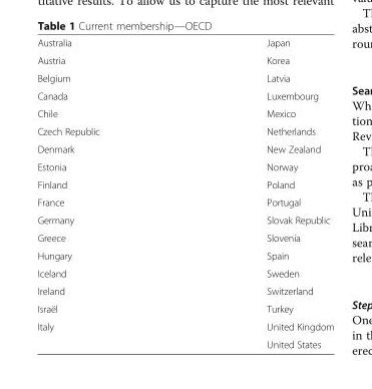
<table><tbody><tr><td>Australia</td><td>Japan</td></tr><tr><td>Austria</td><td>Korea</td></tr><tr><td>Belgium</td><td>Latvia</td></tr><tr><td>Canada</td><td>Luxembourg</td></tr><tr><td>Chile</td><td>Mexico</td></tr><tr><td>Czech Republic</td><td>Netherlands</td></tr><tr><td>Denmark</td><td>New Zealand</td></tr><tr><td>Estonia</td><td>Norway</td></tr><tr><td>Finland</td><td>Poland</td></tr><tr><td>France</td><td>Portugal</td></tr><tr><td>Germany</td><td>Slovak Republic</td></tr><tr><td>Greece</td><td>Slovenia</td></tr><tr><td>Hungary</td><td>Spain</td></tr><tr><td>Iceland</td><td>Sweden</td></tr><tr><td>Ireland</td><td>Switzerland</td></tr><tr><td>Israël</td><td>Turkey</td></tr><tr><td rowspan="2">Italy</td><td>United Kingdom</td></tr><tr><td>United States</td></tr></tbody></table>